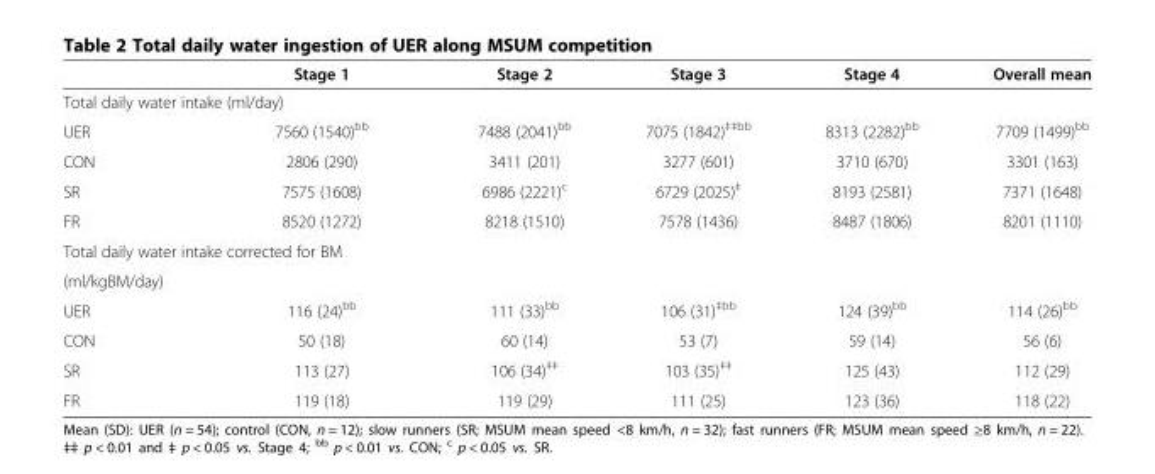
<table><thead><tr><td></td><td>Stage 1</td><td>Stage 2</td><td>Stage 3</td><td>Stage 4</td><td>Overall mean</td></tr></thead><tbody><tr><td colspan="6">Total daily water intake (ml/day)</td></tr><tr><td>UER</td><td>7560 (1540)<sup>bb</sup></td><td>7488 (2041)<sup>bb</sup></td><td>7075 (1842)<sup>‡‡bb</sup></td><td>8313 (2282)<sup>bb</sup></td><td>7709 (1499)<sup>bb</sup></td></tr><tr><td>CON</td><td>2806 (290)</td><td>3411 (201)</td><td>3277 (601)</td><td>3710 (670)</td><td>3301 (163)</td></tr><tr><td>SR</td><td>7575 (1608)</td><td>6986 (2221)<sup>c</sup></td><td>6729 (2025)<sup>‡</sup></td><td>8193 (2581)</td><td>7371 (1648)</td></tr><tr><td>FR</td><td>8520 (1272)</td><td>8218 (1510)</td><td>7578 (1436)</td><td>8487 (1806)</td><td>8201 (1110)</td></tr><tr><td colspan="6">Total daily water intake corrected for BM</td></tr><tr><td colspan="6">(ml/kgBM/day)</td></tr><tr><td>UER</td><td>116 (24)<sup>bb</sup></td><td>111 (33)<sup>bb</sup></td><td>106 (31)<sup>‡bb</sup></td><td>124 (39)<sup>bb</sup></td><td>114 (26)<sup>bb</sup></td></tr><tr><td>CON</td><td>50 (18)</td><td>60 (14)</td><td>53 (7)</td><td>59 (14)</td><td>56 (6)</td></tr><tr><td>SR</td><td>113 (27)</td><td>106 (34)<sup>‡‡</sup></td><td>103 (35)<sup>‡‡</sup></td><td>125 (43)</td><td>112 (29)</td></tr><tr><td>FR</td><td>119 (18)</td><td>119 (29)</td><td>111 (25)</td><td>123 (36)</td><td>118 (22)</td></tr></tbody></table>